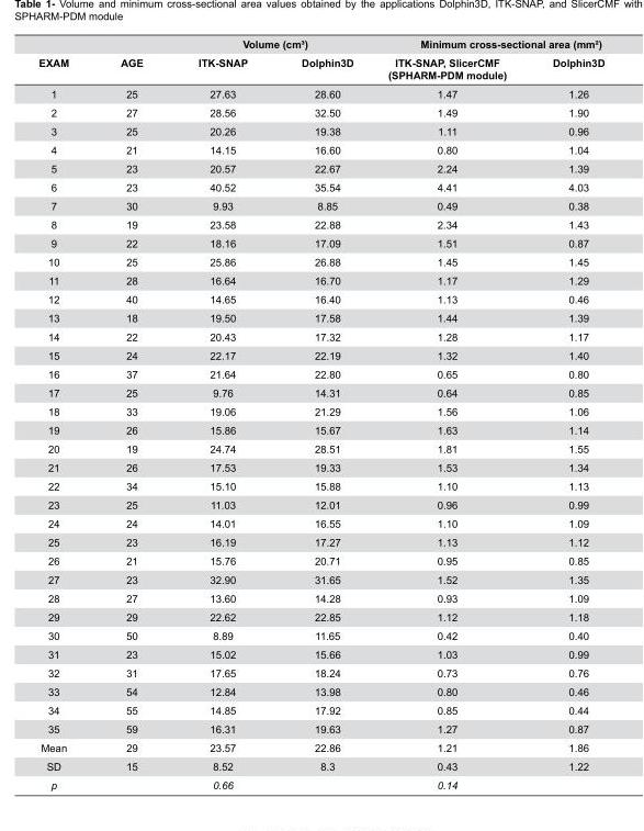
<table><thead><tr><td rowspan="2">EXAM</td><td rowspan="2">AGE</td><td colspan="2">Volume (cm³)</td><td colspan="2">Minimum cross-sectional area (mm²)</td></tr><tr><td>ITK-SNAP</td><td>Dolphin3D</td><td>ITK-SNAP, SlicerCMF (SPHARM-PDM module)</td><td>Dolphin3D</td></tr></thead><tbody><tr><td>1</td><td>25</td><td>27.63</td><td>28.60</td><td>1.47</td><td>1.26</td></tr><tr><td>2</td><td>27</td><td>28.56</td><td>32.50</td><td>1.49</td><td>1.90</td></tr><tr><td>3</td><td>25</td><td>20.26</td><td>19.38</td><td>1.11</td><td>0.96</td></tr><tr><td>4</td><td>21</td><td>14.15</td><td>16.60</td><td>0.80</td><td>1.04</td></tr><tr><td>5</td><td>23</td><td>20.57</td><td>22.67</td><td>2.24</td><td>1.39</td></tr><tr><td>6</td><td>23</td><td>40.52</td><td>35.54</td><td>4.41</td><td>4.03</td></tr><tr><td>7</td><td>30</td><td>9.93</td><td>8.85</td><td>0.49</td><td>0.38</td></tr><tr><td>8</td><td>19</td><td>23.58</td><td>22.88</td><td>2.34</td><td>1.43</td></tr><tr><td>9</td><td>22</td><td>18.16</td><td>17.09</td><td>1.51</td><td>0.87</td></tr><tr><td>10</td><td>25</td><td>25.86</td><td>26.88</td><td>1.45</td><td>1.45</td></tr><tr><td>11</td><td>28</td><td>16.64</td><td>16.70</td><td>1.17</td><td>1.29</td></tr><tr><td>12</td><td>40</td><td>14.65</td><td>16.40</td><td>1.13</td><td>0.46</td></tr><tr><td>13</td><td>18</td><td>19.50</td><td>17.58</td><td>1.44</td><td>1.39</td></tr><tr><td>14</td><td>22</td><td>20.43</td><td>17.32</td><td>1.28</td><td>1.17</td></tr><tr><td>15</td><td>24</td><td>22.17</td><td>22.19</td><td>1.32</td><td>1.40</td></tr><tr><td>16</td><td>37</td><td>21.64</td><td>22.80</td><td>0.65</td><td>0.80</td></tr><tr><td>17</td><td>25</td><td>9.76</td><td>14.31</td><td>0.64</td><td>0.85</td></tr><tr><td>18</td><td>33</td><td>19.06</td><td>21.29</td><td>1.56</td><td>1.06</td></tr><tr><td>19</td><td>26</td><td>15.86</td><td>15.67</td><td>1.63</td><td>1.14</td></tr><tr><td>20</td><td>19</td><td>24.74</td><td>28.51</td><td>1.81</td><td>1.55</td></tr><tr><td>21</td><td>26</td><td>17.53</td><td>19.33</td><td>1.53</td><td>1.34</td></tr><tr><td>22</td><td>34</td><td>15.10</td><td>15.88</td><td>1.10</td><td>1.13</td></tr><tr><td>23</td><td>25</td><td>11.03</td><td>12.01</td><td>0.96</td><td>0.99</td></tr><tr><td>24</td><td>24</td><td>14.01</td><td>16.55</td><td>1.10</td><td>1.09</td></tr><tr><td>25</td><td>23</td><td>16.19</td><td>17.27</td><td>1.13</td><td>1.12</td></tr><tr><td>26</td><td>21</td><td>15.76</td><td>20.71</td><td>0.95</td><td>0.85</td></tr><tr><td>27</td><td>23</td><td>32.90</td><td>31.65</td><td>1.52</td><td>1.35</td></tr><tr><td>28</td><td>27</td><td>13.60</td><td>14.28</td><td>0.93</td><td>1.09</td></tr><tr><td>29</td><td>29</td><td>22.62</td><td>22.85</td><td>1.12</td><td>1.18</td></tr><tr><td>30</td><td>50</td><td>8.89</td><td>11.65</td><td>0.42</td><td>0.40</td></tr><tr><td>31</td><td>23</td><td>15.02</td><td>15.66</td><td>1.03</td><td>0.99</td></tr><tr><td>32</td><td>31</td><td>17.65</td><td>18.24</td><td>0.73</td><td>0.76</td></tr><tr><td>33</td><td>54</td><td>12.84</td><td>13.98</td><td>0.80</td><td>0.46</td></tr><tr><td>34</td><td>55</td><td>14.85</td><td>17.92</td><td>0.85</td><td>0.44</td></tr><tr><td>35</td><td>59</td><td>16.31</td><td>19.63</td><td>1.27</td><td>0.87</td></tr><tr><td>Mean</td><td>29</td><td>23.57</td><td>22.86</td><td>1.21</td><td>1.86</td></tr><tr><td>SD</td><td>15</td><td>8.52</td><td>8.3</td><td>0.43</td><td>1.22</td></tr><tr><td>p</td><td></td><td>0.66</td><td></td><td>0.14</td><td></td></tr></tbody></table>